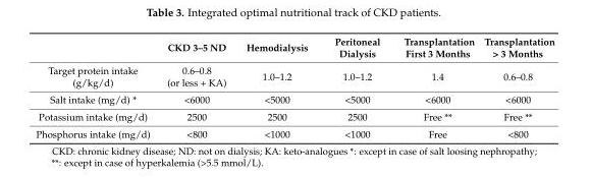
<table><thead><tr><td></td><td>CKD 3–5 ND</td><td>Hemodialysis</td><td>Peritoneal Dialysis</td><td>Transplantation First 3 Months</td><td>Transplantation &gt; 3 Months</td></tr></thead><tbody><tr><td>Target protein intake (g/kg/d)</td><td>0.6–0.8 (or less + KA)</td><td>1.0–1.2</td><td>1.0–1.2</td><td>1.4</td><td>0.6–0.8</td></tr><tr><td>Salt intake (mg/d) *</td><td>&lt;6000</td><td>&lt;5000</td><td>&lt;5000</td><td>&lt;6000</td><td>&lt;6000</td></tr><tr><td>Potassium intake (mg/d)</td><td>2500</td><td>2500</td><td>2500</td><td>Free **</td><td>Free **</td></tr><tr><td>Phosphorus intake (mg/d)</td><td>&lt;800</td><td>&lt;1000</td><td>&lt;1000</td><td>Free</td><td>&lt;800</td></tr></tbody></table>